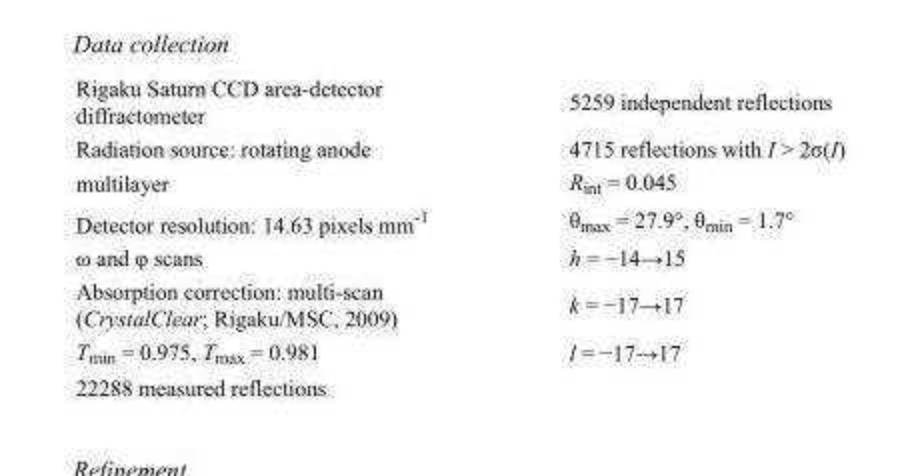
<table><tbody><tr><td>Rigaku Saturn CCD area-detector diffractometer</td><td>5259 independent reflections</td></tr><tr><td>Radiation source: rotating anode</td><td>4715 reflections with I &gt; 2σ(I)</td></tr><tr><td>multilayer</td><td>R<sub>int</sub> = 0.045</td></tr><tr><td>Detector resolution: 14.63 pixels mm<sup>-1</sup></td><td>θ<sub>max</sub> = 27.9°, θ<sub>min</sub> = 1.7°</td></tr><tr><td>ω and φ scans</td><td>h = −14→15</td></tr><tr><td>Absorption correction: multi-scan (CrystalClear; Rigaku/MSC, 2009)</td><td>k = −17→17</td></tr><tr><td>T<sub>min</sub> = 0.975, T<sub>max</sub> = 0.981</td><td>l = −17→17</td></tr><tr><td>22288 measured reflections</td><td></td></tr></tbody></table>